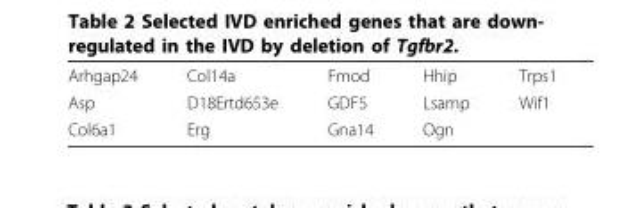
<table><tbody><tr><td>Arhgap24</td><td>Col14a</td><td>Fmod</td><td>Hhip</td><td>Trps1</td></tr><tr><td>Asp</td><td>D18Ertd653e</td><td>GDF5</td><td>Lsamp</td><td>Wif1</td></tr><tr><td>Col6a1</td><td>Erg</td><td>Gna14</td><td>Ogn</td><td></td></tr></tbody></table>